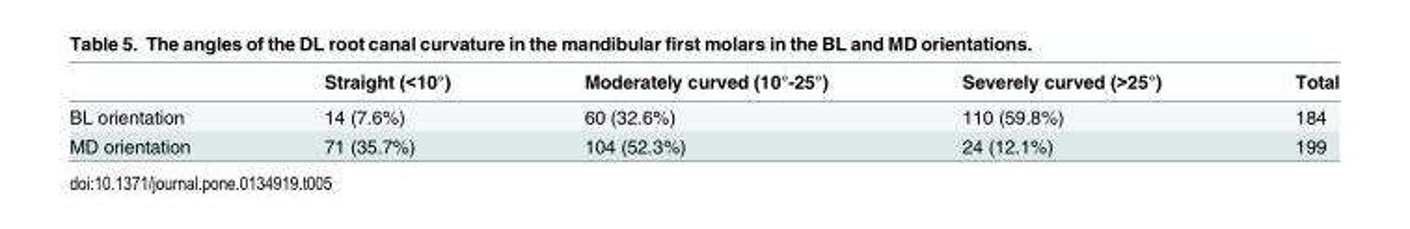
<table><thead><tr><td></td><td>Straight (&lt;10°)</td><td>Moderately curved (10°-25°)</td><td>Severely curved (&gt;25°)</td><td>Total</td></tr></thead><tbody><tr><td>BL orientation</td><td>14 (7.6%)</td><td>60 (32.6%)</td><td>110 (59.8%)</td><td>184</td></tr><tr><td>MD orientation</td><td>71 (35.7%)</td><td>104 (52.3%)</td><td>24 (12.1%)</td><td>199</td></tr></tbody></table>